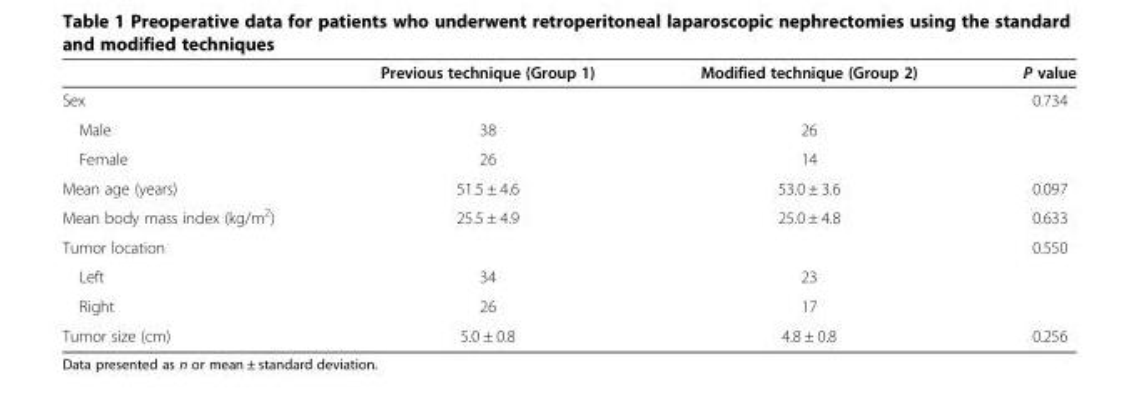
<table><thead><tr><td></td><td>Previous technique (Group 1)</td><td>Modified technique (Group 2)</td><td>P value</td></tr></thead><tbody><tr><td>Sex</td><td></td><td></td><td>0.734</td></tr><tr><td>Male</td><td>38</td><td>26</td><td></td></tr><tr><td>Female</td><td>26</td><td>14</td><td></td></tr><tr><td>Mean age (years)</td><td>51.5 ± 4.6</td><td>53.0 ± 3.6</td><td>0.097</td></tr><tr><td>Mean body mass index (kg/m<sup>2</sup>)</td><td>25.5 ± 4.9</td><td>25.0 ± 4.8</td><td>0.633</td></tr><tr><td>Tumor location</td><td></td><td></td><td>0.550</td></tr><tr><td>Left</td><td>34</td><td>23</td><td></td></tr><tr><td>Right</td><td>26</td><td>17</td><td></td></tr><tr><td>Tumor size (cm)</td><td>5.0 ± 0.8</td><td>4.8 ± 0.8</td><td>0.256</td></tr></tbody></table>